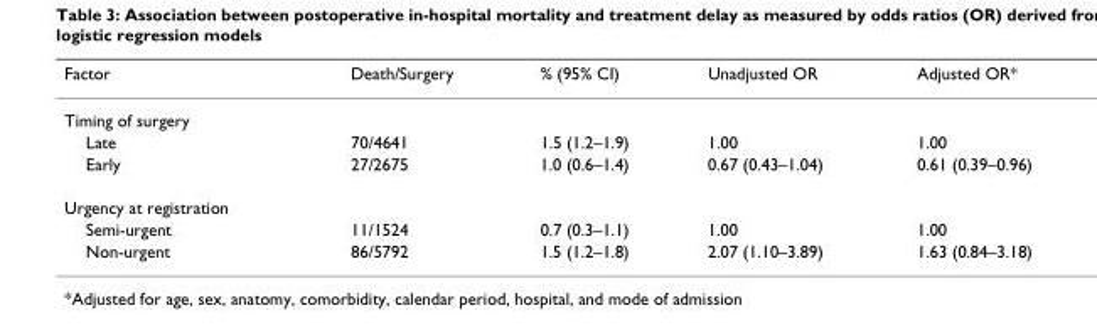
<table><thead><tr><td>Factor</td><td>Death/Surgery</td><td>% (95% CI)</td><td>Unadjusted OR</td><td>Adjusted OR*</td></tr></thead><tbody><tr><td colspan="5">Timing of surgery</td></tr><tr><td>Late</td><td>70/4641</td><td>1.5 (1.2–1.9)</td><td>1.00</td><td>1.00</td></tr><tr><td>Early</td><td>27/2675</td><td>1.0 (0.6–1.4)</td><td>0.67 (0.43–1.04)</td><td>0.61 (0.39–0.96)</td></tr><tr><td colspan="5">Urgency at registration</td></tr><tr><td>Semi-urgent</td><td>11/1524</td><td>0.7 (0.3–1.1)</td><td>1.00</td><td>1.00</td></tr><tr><td>Non-urgent</td><td>86/5792</td><td>1.5 (1.2–1.8)</td><td>2.07 (1.10–3.89)</td><td>1.63 (0.84–3.18)</td></tr></tbody></table>